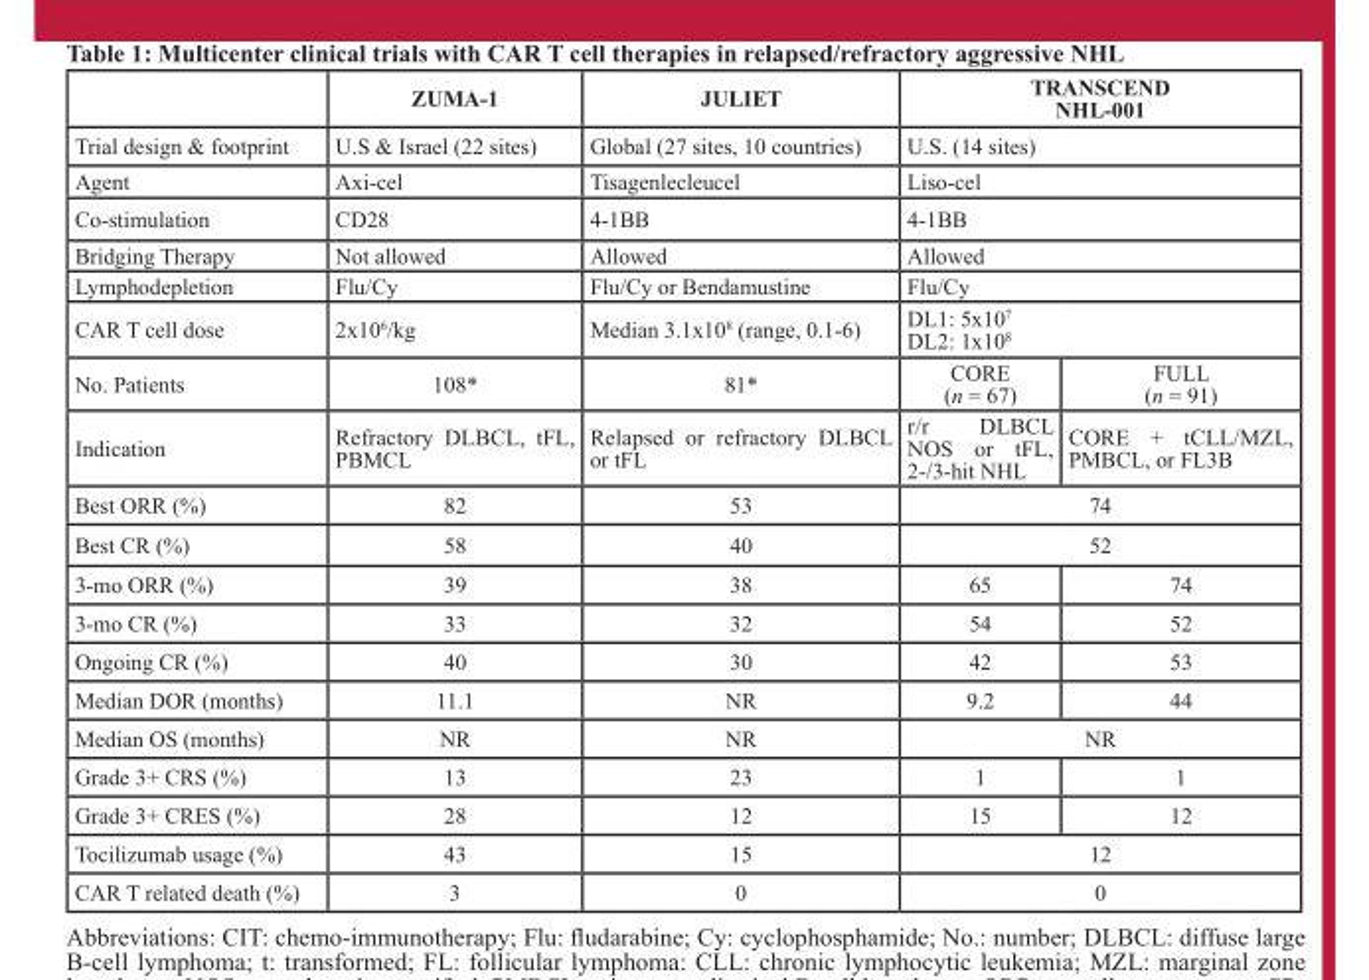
<table><thead><tr><td></td><td>ZUMA-1</td><td>JULIET</td><td colspan="2">TRANSCEND NHL-001</td></tr></thead><tbody><tr><td>Trial design &amp; footprint</td><td>U.S &amp; Israel (22 sites)</td><td>Global (27 sites, 10 countries)</td><td colspan="2">U.S. (14 sites)</td></tr><tr><td>Agent</td><td>Axi-cel</td><td>Tisagenlecleucel</td><td colspan="2">Liso-cel</td></tr><tr><td>Co-stimulation</td><td>CD28</td><td>4-1BB</td><td colspan="2">4-1BB</td></tr><tr><td>Bridging Therapy</td><td>Not allowed</td><td>Allowed</td><td colspan="2">Allowed</td></tr><tr><td>Lymphodepletion</td><td>Flu/Cy</td><td>Flu/Cy or Bendamustine</td><td colspan="2">Flu/Cy</td></tr><tr><td>CAR T cell dose</td><td>2x106/kg</td><td>Median 3.1x108 (range, 0.1-6)</td><td colspan="2">DL1: 5x107 DL2: 1x108</td></tr><tr><td>No. Patients</td><td>108*</td><td>81*</td><td>CORE (n = 67)</td><td>FULL (n = 91)</td></tr><tr><td>Indication</td><td>Refractory DLBCL, tFL, PBMCL</td><td>Relapsed or refractory DLBCL or tFL</td><td>r/r DLBCL NOS or tFL, 2-/3-hit NHL</td><td>CORE + tCLL/MZL, PMBCL, or FL3B</td></tr><tr><td>Best ORR (%)</td><td>82</td><td>53</td><td colspan="2">74</td></tr><tr><td>Best CR (%)</td><td>58</td><td>40</td><td colspan="2">52</td></tr><tr><td>3-mo ORR (%)</td><td>39</td><td>38</td><td>65</td><td>74</td></tr><tr><td>3-mo CR (%)</td><td>33</td><td>32</td><td>54</td><td>52</td></tr><tr><td>Ongoing CR (%)</td><td>40</td><td>30</td><td>42</td><td>53</td></tr><tr><td>Median DOR (months)</td><td>11.1</td><td>NR</td><td>9.2</td><td>44</td></tr><tr><td>Median OS (months)</td><td>NR</td><td>NR</td><td colspan="2">NR</td></tr><tr><td>Grade 3+ CRS (%)</td><td>13</td><td>23</td><td>1</td><td>1</td></tr><tr><td>Grade 3+ CRES (%)</td><td>28</td><td>12</td><td>15</td><td>12</td></tr><tr><td>Tocilizumab usage (%)</td><td>43</td><td>15</td><td colspan="2">12</td></tr><tr><td>CAR T related death (%)</td><td>3</td><td>0</td><td colspan="2">0</td></tr></tbody></table>